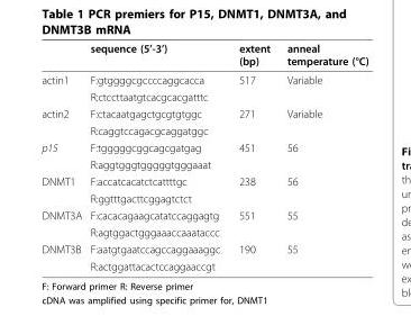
<table><thead><tr><td></td><td>sequence (5’-3’)</td><td>extent (bp)</td><td>anneal temperature (°C)</td></tr></thead><tbody><tr><td rowspan="2">actin1</td><td>F:gtggggcgccccaggcacca</td><td>517</td><td>Variable</td></tr><tr><td>R:ctccttaatgtcacgcacgatttc</td><td></td><td></td></tr><tr><td rowspan="2">actin2</td><td>F:ctacaatgagctgcgtgtggc</td><td>271</td><td>Variable</td></tr><tr><td>R:caggtccagacgcaggatggc</td><td></td><td></td></tr><tr><td rowspan="2">p15</td><td>F:tgggggcggcagcgatgag</td><td>451</td><td>56</td></tr><tr><td>R:aggtgggtgggggtgggaaat</td><td></td><td></td></tr><tr><td rowspan="2">DNMT1</td><td>F:accatcacatctcattttgc</td><td>238</td><td>56</td></tr><tr><td>R:ggtttgacttcggagtctct</td><td></td><td></td></tr><tr><td rowspan="2">DNMT3A</td><td>F:cacacagaagcatatccaggagtg</td><td>551</td><td>55</td></tr><tr><td>R:agtggactgggaaaccaaataccc</td><td></td><td></td></tr><tr><td rowspan="2">DNMT3B</td><td>F:aatgtgaatccagccaggaaaggc</td><td>190</td><td>55</td></tr><tr><td>R:actggattacactccaggaaccgt</td><td></td><td></td></tr></tbody></table>